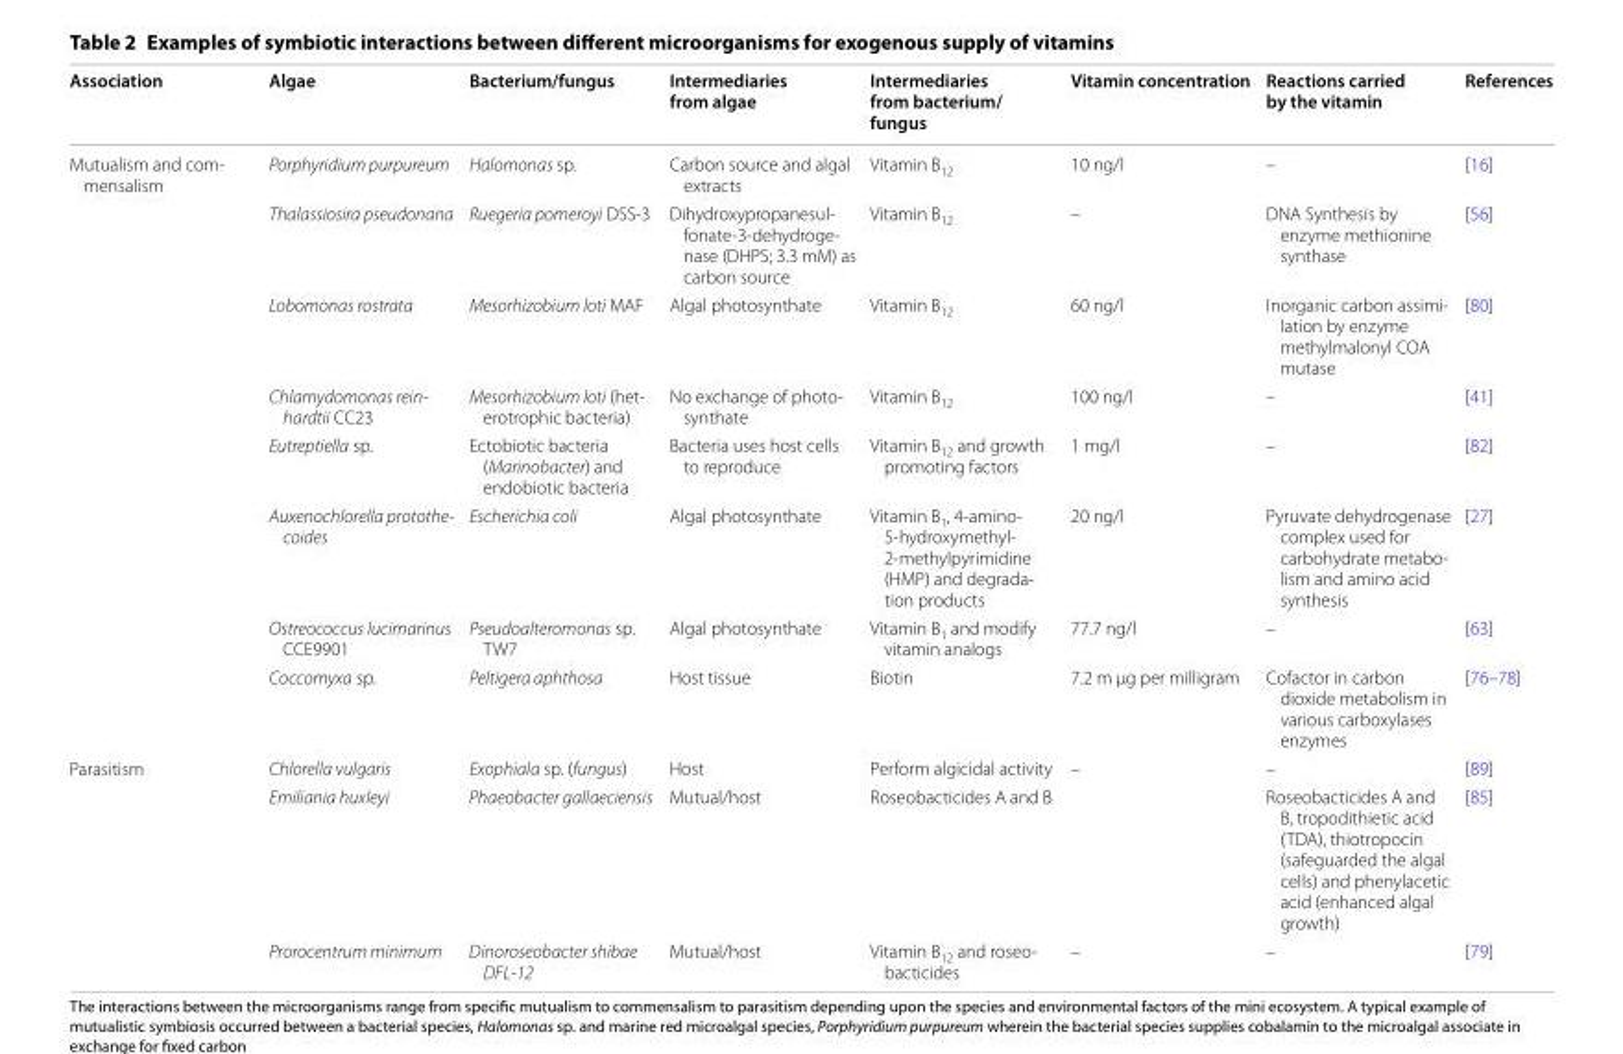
<table><thead><tr><td>Association</td><td>Algae</td><td>Bacterium/fungus</td><td>Intermediaries from algae</td><td>Intermediaries from bacterium/ fungus</td><td>Vitamin concentration</td><td>Reactions carried by the vitamin</td><td>References</td></tr></thead><tbody><tr><td rowspan="8">Mutualism and com- mensalism</td><td>Porphyridium purpureum</td><td>Halomonas sp.</td><td>Carbon source and algal extracts</td><td>Vitamin B<sub>12</sub></td><td>10 ng/l</td><td>–</td><td>[16]</td></tr><tr><td>Thalassiosira pseudonana</td><td>Ruegeria pomeroyi DSS-3</td><td>Dihydroxypropanesul- fonate-3-dehydroge- nase (DHPS; 3.3 mM) as carbon source</td><td>Vitamin B<sub>12</sub></td><td>–</td><td>DNA Synthesis by enzyme methionine synthase</td><td>[56]</td></tr><tr><td>Lobomonas rostrata</td><td>Mesorhizobium loti MAF</td><td>Algal photosynthate</td><td>Vitamin B<sub>12</sub></td><td>60 ng/l</td><td>Inorganic carbon assimi- lation by enzyme methylmalonyl COA mutase</td><td>[80]</td></tr><tr><td>Chlamydomonas rein- hardtii CC23</td><td>Mesorhizobium loti (het- erotrophic bacteria)</td><td>No exchange of photo- synthate</td><td>Vitamin B<sub>12</sub></td><td>100 ng/l</td><td>–</td><td>[41]</td></tr><tr><td>Eutreptiella sp.</td><td>Ectobiotic bacteria (Marinobacter) and endobiotic bacteria</td><td>Bacteria uses host cells to reproduce</td><td>Vitamin B<sub>12</sub> and growth promoting factors</td><td>1 mg/l</td><td>–</td><td>[82]</td></tr><tr><td>Auxenochlorella protothe- coides</td><td>Escherichia coli</td><td>Algal photosynthate</td><td>Vitamin B1, 4-amino- 5-hydroxymethyl- 2-methylpyrimidine (HMP) and degrada- tion products</td><td>20 ng/l</td><td>Pyruvate dehydrogenase complex used for carbohydrate metabo- lism and amino acid synthesis</td><td>[27]</td></tr><tr><td>Ostreococcus lucimarinus CCE9901</td><td>Pseudoalteromonas sp. TW7</td><td>Algal photosynthate</td><td>Vitamin B<sub>1</sub> and modify vitamin analogs</td><td>77.7 ng/l</td><td>–</td><td>[63]</td></tr><tr><td>Coccomyxa sp.</td><td>Peltigera aphthosa</td><td>Host tissue</td><td>Biotin</td><td>7.2 m µg per milligram</td><td>Cofactor in carbon dioxide metabolism in various carboxylases enzymes</td><td>[76–78]</td></tr><tr><td rowspan="3">Parasitism</td><td>Chlorella vulgaris</td><td>Exophiala sp. (fungus)</td><td>Host</td><td>Perform algicidal activity</td><td>–</td><td>–</td><td>[89]</td></tr><tr><td>Emiliania huxleyi</td><td>Phaeobacter gallaeciensis</td><td>Mutual/host</td><td>Roseobacticides A and B</td><td></td><td>Roseobacticides A and B, tropodithietic acid (TDA), thiotropocin (safeguarded the algal cells) and phenylacetic acid (enhanced algal growth)</td><td>[85]</td></tr><tr><td>Prorocentrum minimum</td><td>Dinoroseobacter shibae DFL-12</td><td>Mutual/host</td><td>Vitamin B12 and roseo- bacticides</td><td>–</td><td>–</td><td>[79]</td></tr></tbody></table>